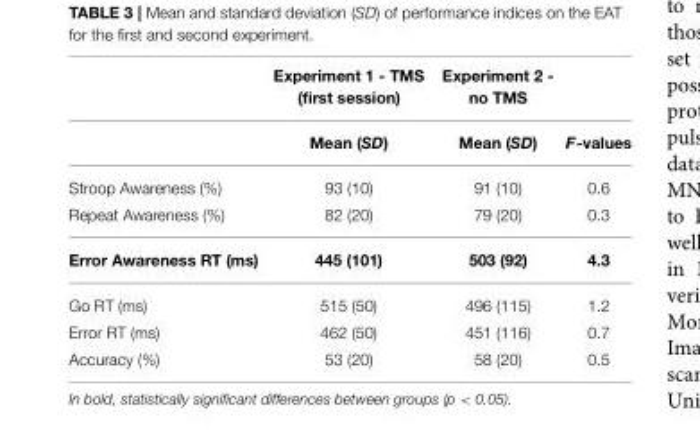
<table><thead><tr><td></td><td>Experiment 1 - TMS (first session)</td><td>Experiment 2 - no TMS</td><td></td></tr></thead><tbody><tr><td></td><td>Mean (SD)</td><td>Mean (SD)</td><td>F-values</td></tr><tr><td>Stroop Awareness (%)</td><td>93 (10)</td><td>91 (10)</td><td>0.6</td></tr><tr><td>Repeat Awareness (%)</td><td>82 (20)</td><td>79 (20)</td><td>0.3</td></tr><tr><td>Error Awareness RT (ms)</td><td>445 (101)</td><td>503 (92)</td><td>4.3</td></tr><tr><td>Go RT (ms)</td><td>515 (50)</td><td>496 (115)</td><td>1.2</td></tr><tr><td>Error RT (ms)</td><td>462 (50)</td><td>451 (116)</td><td>0.7</td></tr><tr><td>Accuracy (%)</td><td>53 (20)</td><td>58 (20)</td><td>0.5</td></tr></tbody></table>